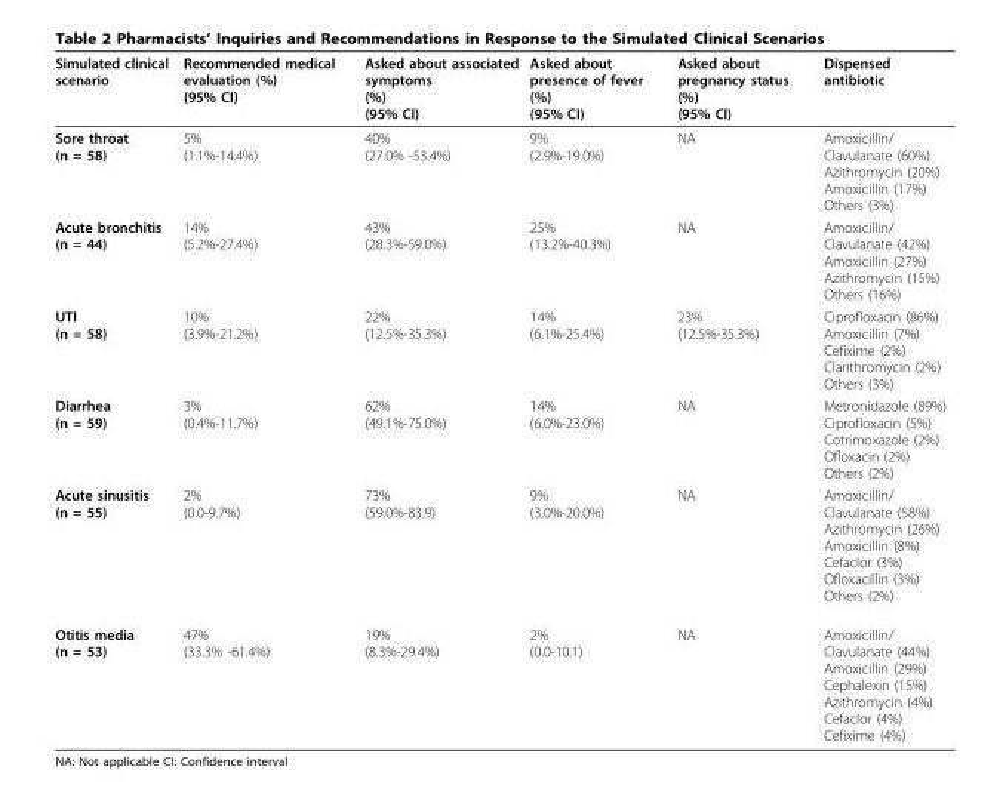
<table><thead><tr><td>Simulated clinical scenario</td><td>Recommended medical evaluation (%) (95% CI)</td><td>Asked about associated symptoms (%) (95% CI)</td><td>Asked about presence of fever (%) (95% CI)</td><td>Asked about pregnancy status (%) (95% CI)</td><td>Dispensed antibiotic</td></tr></thead><tbody><tr><td>Sore throat (n = 58)</td><td>5% (1.1%-14.4%)</td><td>40% (27.0% -53.4%)</td><td>9% (2.9%-19.0%)</td><td>NA</td><td>Amoxicillin/ Clavulanate (60%) Azithromycin (20%) Amoxicillin (17%) Others (3%)</td></tr><tr><td>Acute bronchitis (n = 44)</td><td>14% (5.2%-27.4%)</td><td>43% (28.3%-59.0%)</td><td>25% (13.2%-40.3%)</td><td>NA</td><td>Amoxicillin/ Clavulanate (42%) Amoxicillin (27%) Azithromycin (15%) Others (16%)</td></tr><tr><td>UTI (n = 58)</td><td>10% (3.9%-21.2%)</td><td>22% (12.5%-35.3%)</td><td>14% (6.1%-25.4%)</td><td>23% (12.5%-35.3%)</td><td>Ciprofloxacin (86%) Amoxicillin (7%) Cefixime (2%) Clarithromycin (2%) Others (3%)</td></tr><tr><td>Diarrhea (n = 59)</td><td>3% (0.4%-11.7%)</td><td>62% (49.1%-75.0%)</td><td>14% (6.0%-23.0%)</td><td>NA</td><td>Metronidazole (89%) Ciprofloxacin (5%) Cotrimoxazole (2%) Ofloxacin (2%) Others (2%)</td></tr><tr><td>Acute sinusitis (n = 55)</td><td>2% (0.0-9.7%)</td><td>73% (59.0%-83.9)</td><td>9% (3.0%-20.0%)</td><td>NA</td><td>Amoxicillin/ Clavulanate (58%) Azithromycin (26%) Amoxicillin (8%) Cefaclor (3%) Ofloxacillin (3%) Others (2%)</td></tr><tr><td>Otitis media (n = 53)</td><td>47% (33.3% -61.4%)</td><td>19% (8.3%-29.4%)</td><td>2% (0.0-10.1)</td><td>NA</td><td>Amoxicillin/ Clavulanate (44%) Amoxicillin (29%) Cephalexin (15%) Azithromycin (4%) Cefaclor (4%) Cefixime (4%)</td></tr></tbody></table>